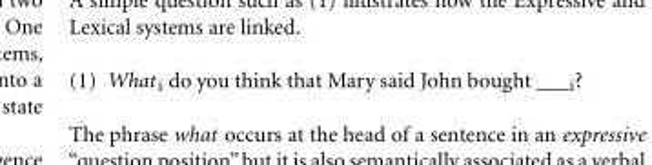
<table><tbody><tr><td>(1)</td><td>What i do you think that Mary said John bought ___i?</td></tr></tbody></table>